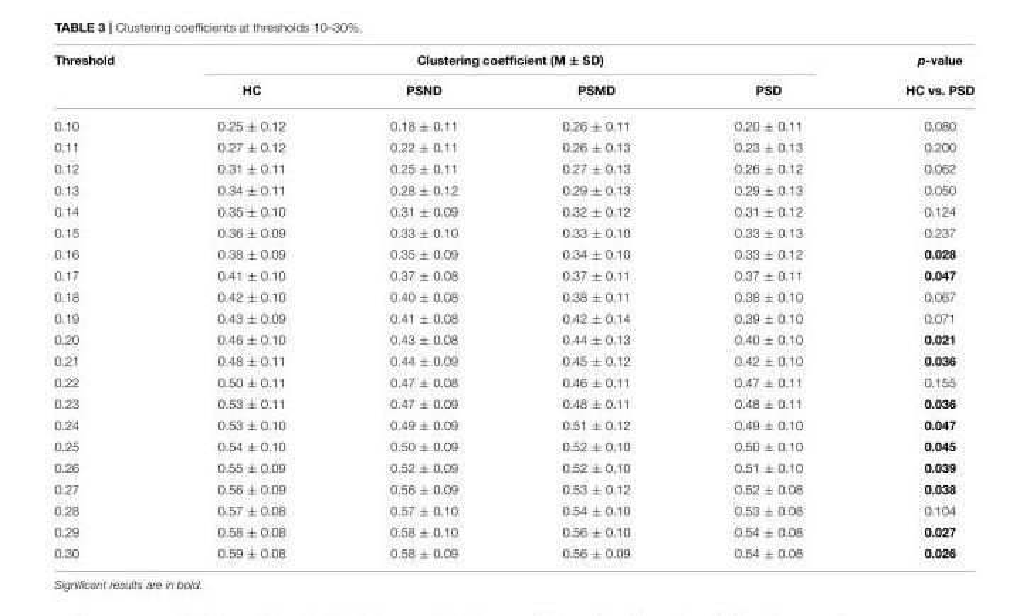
<table><thead><tr><td rowspan="2">Threshold</td><td colspan="4">Clustering coefficient (M ± SD)</td><td rowspan="2">p-value HC vs. PSD</td></tr><tr><td>HC</td><td>PSND</td><td>PSMD</td><td>PSD</td></tr></thead><tbody><tr><td>0.10</td><td>0.25 ± 0.12</td><td>0.18 ± 0.11</td><td>0.26 ± 0.11</td><td>0.20 ± 0.11</td><td>0.080</td></tr><tr><td>0.11</td><td>0.27 ± 0.12</td><td>0.22 ± 0.11</td><td>0.26 ± 0.13</td><td>0.23 ± 0.13</td><td>0.200</td></tr><tr><td>0.12</td><td>0.31 ± 0.11</td><td>0.25 ± 0.11</td><td>0.27 ± 0.13</td><td>0.26 ± 0.12</td><td>0.062</td></tr><tr><td>0.13</td><td>0.34 ± 0.11</td><td>0.28 ± 0.12</td><td>0.29 ± 0.13</td><td>0.29 ± 0.13</td><td>0.050</td></tr><tr><td>0.14</td><td>0.35 ± 0.10</td><td>0.31 ± 0.09</td><td>0.32 ± 0.12</td><td>0.31 ± 0.12</td><td>0.124</td></tr><tr><td>0.15</td><td>0.36 ± 0.09</td><td>0.33 ± 0.10</td><td>0.33 ± 0.10</td><td>0.33 ± 0.13</td><td>0.237</td></tr><tr><td>0.16</td><td>0.38 ± 0.09</td><td>0.35 ± 0.09</td><td>0.34 ± 0.10</td><td>0.33 ± 0.12</td><td>0.028</td></tr><tr><td>0.17</td><td>0.41 ± 0.10</td><td>0.37 ± 0.08</td><td>0.37 ± 0.11</td><td>0.37 ± 0.11</td><td>0.047</td></tr><tr><td>0.18</td><td>0.42 ± 0.10</td><td>0.40 ± 0.08</td><td>0.38 ± 0.11</td><td>0.38 ± 0.10</td><td>0.067</td></tr><tr><td>0.19</td><td>0.43 ± 0.09</td><td>0.41 ± 0.08</td><td>0.42 ± 0.14</td><td>0.39 ± 0.10</td><td>0.071</td></tr><tr><td>0.20</td><td>0.46 ± 0.10</td><td>0.43 ± 0.08</td><td>0.44 ± 0.13</td><td>0.40 ± 0.10</td><td>0.021</td></tr><tr><td>0.21</td><td>0.48 ± 0.11</td><td>0.44 ± 0.09</td><td>0.45 ± 0.12</td><td>0.42 ± 0.10</td><td>0.036</td></tr><tr><td>0.22</td><td>0.50 ± 0.11</td><td>0.47 ± 0.08</td><td>0.46 ± 0.11</td><td>0.47 ± 0.11</td><td>0.155</td></tr><tr><td>0.23</td><td>0.53 ± 0.11</td><td>0.47 ± 0.09</td><td>0.48 ± 0.11</td><td>0.48 ± 0.11</td><td>0.036</td></tr><tr><td>0.24</td><td>0.53 ± 0.10</td><td>0.49 ± 0.09</td><td>0.51 ± 0.12</td><td>0.49 ± 0.10</td><td>0.047</td></tr><tr><td>0.25</td><td>0.54 ± 0.10</td><td>0.50 ± 0.09</td><td>0.52 ± 0.10</td><td>0.50 ± 0.10</td><td>0.045</td></tr><tr><td>0.26</td><td>0.55 ± 0.09</td><td>0.52 ± 0.09</td><td>0.52 ± 0.10</td><td>0.51 ± 0.10</td><td>0.039</td></tr><tr><td>0.27</td><td>0.56 ± 0.09</td><td>0.56 ± 0.09</td><td>0.53 ± 0.12</td><td>0.52 ± 0.08</td><td>0.038</td></tr><tr><td>0.28</td><td>0.57 ± 0.08</td><td>0.57 ± 0.10</td><td>0.54 ± 0.10</td><td>0.53 ± 0.08</td><td>0.104</td></tr><tr><td>0.29</td><td>0.58 ± 0.08</td><td>0.58 ± 0.10</td><td>0.56 ± 0.10</td><td>0.54 ± 0.08</td><td>0.027</td></tr><tr><td>0.30</td><td>0.59 ± 0.08</td><td>0.58 ± 0.09</td><td>0.56 ± 0.09</td><td>0.54 ± 0.08</td><td>0.026</td></tr></tbody></table>